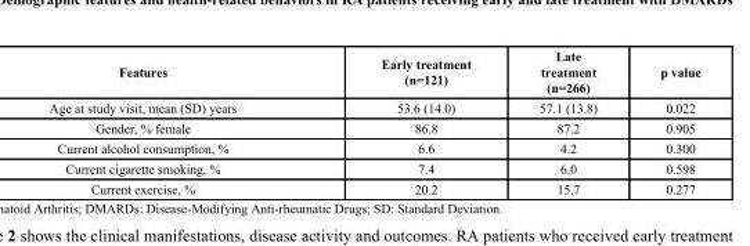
<table><thead><tr><td>Features</td><td>Early treatment (n=121)</td><td>Late treatment (n=266)</td><td>p value</td></tr></thead><tbody><tr><td>Age at study visit, mean (SD) years</td><td>53.6 (14.0)</td><td>57.1 (13.8)</td><td>0.022</td></tr><tr><td>Gender, % female</td><td>86.8</td><td>87.2</td><td>0.905</td></tr><tr><td>Current alcohol consumption, %</td><td>6.6</td><td>4.2</td><td>0.300</td></tr><tr><td>Current cigarette smoking, %</td><td>7.4</td><td>6.0</td><td>0.598</td></tr><tr><td>Current exercise, %</td><td>20.2</td><td>15.7</td><td>0.277</td></tr></tbody></table>